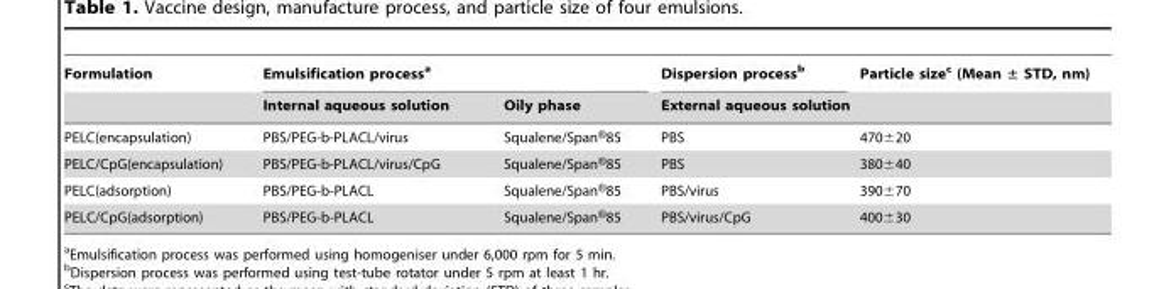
<table><thead><tr><td rowspan="2">Formulation</td><td colspan="2">Emulsification process<sup>a</sup></td><td rowspan="2">Dispersion process<sup>b</sup> External aqueous solution</td><td rowspan="2">Particle size<sup>c</sup> (Mean ± STD, nm)</td></tr><tr><td>Internal aqueous solution</td><td>Oily phase</td></tr></thead><tbody><tr><td>PELC(encapsulation)</td><td>PBS/PEG-b-PLACL/virus</td><td>Squalene/Span®85</td><td>PBS</td><td>470±20</td></tr><tr><td>PELC/CpG(encapsulation)</td><td>PBS/PEG-b-PLACL/virus/CpG</td><td>Squalene/Span®85</td><td>PBS</td><td>380±40</td></tr><tr><td>PELC(adsorption)</td><td>PBS/PEG-b-PLACL</td><td>Squalene/Span®85</td><td>PBS/virus</td><td>390±70</td></tr><tr><td>PELC/CpG(adsorption)</td><td>PBS/PEG-b-PLACL</td><td>Squalene/Span®85</td><td>PBS/virus/CpG</td><td>400±30</td></tr></tbody></table>